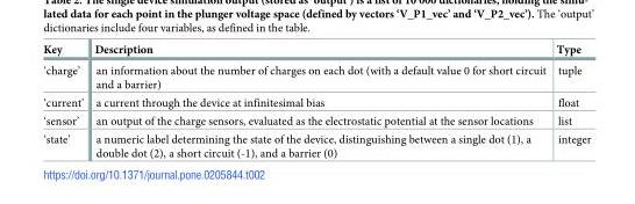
<table><thead><tr><td>Key</td><td>Description</td><td>Type</td></tr></thead><tbody><tr><td>‘charge’</td><td>an information about the number of charges on each dot (with a default value 0 for short circuit and a barrier)</td><td>tuple</td></tr><tr><td>‘current’</td><td>a current through the device at infinitesimal bias</td><td>float</td></tr><tr><td>‘sensor’</td><td>an output of the charge sensors, evaluated as the electrostatic potential at the sensor locations</td><td>list</td></tr><tr><td>‘state’</td><td>a numeric label determining the state of the device, distinguishing between a single dot (1), a double dot (2), a short circuit (-1), and a barrier (0)</td><td>integer</td></tr></tbody></table>